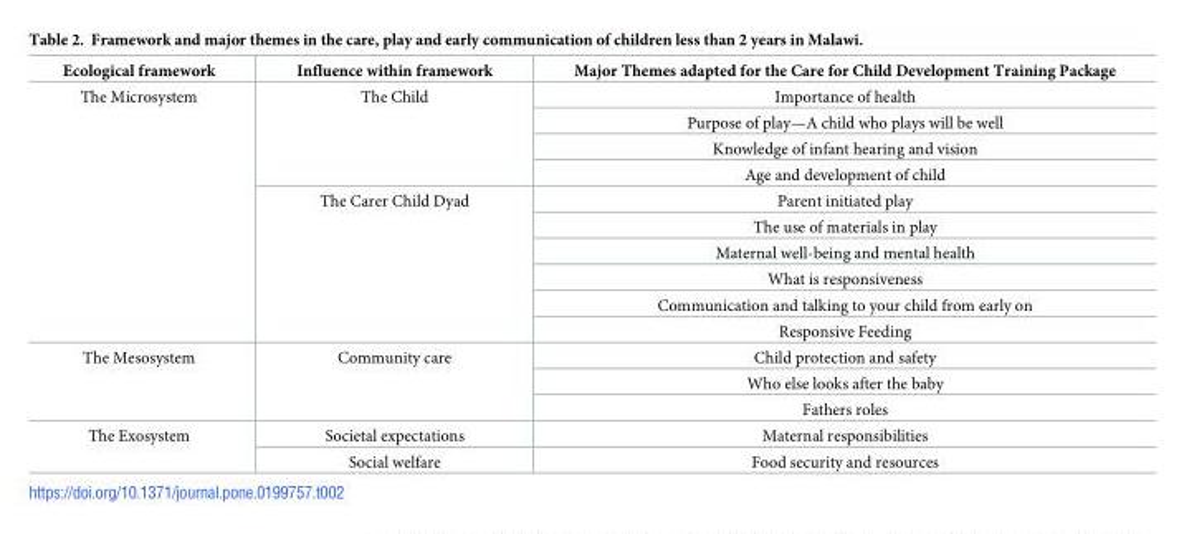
<table><thead><tr><td>Ecological framework</td><td>Influence within framework</td><td>Major Themes adapted for the Care for Child Development Training Package</td></tr></thead><tbody><tr><td rowspan="10">The Microsystem</td><td rowspan="4">The Child</td><td>Importance of health</td></tr><tr><td>Purpose of play—A child who plays will be well</td></tr><tr><td>Knowledge of infant hearing and vision</td></tr><tr><td>Age and development of child</td></tr><tr><td rowspan="6">The Carer Child Dyad</td><td>Parent initiated play</td></tr><tr><td>The use of materials in play</td></tr><tr><td>Maternal well-being and mental health</td></tr><tr><td>What is responsiveness</td></tr><tr><td>Communication and talking to your child from early on</td></tr><tr><td>Responsive Feeding</td></tr><tr><td rowspan="3">The Mesosystem</td><td rowspan="3">Community care</td><td>Child protection and safety</td></tr><tr><td>Who else looks after the baby</td></tr><tr><td>Fathers roles</td></tr><tr><td rowspan="2">The Exosystem</td><td>Societal expectations</td><td>Maternal responsibilities</td></tr><tr><td>Social welfare</td><td>Food security and resources</td></tr></tbody></table>